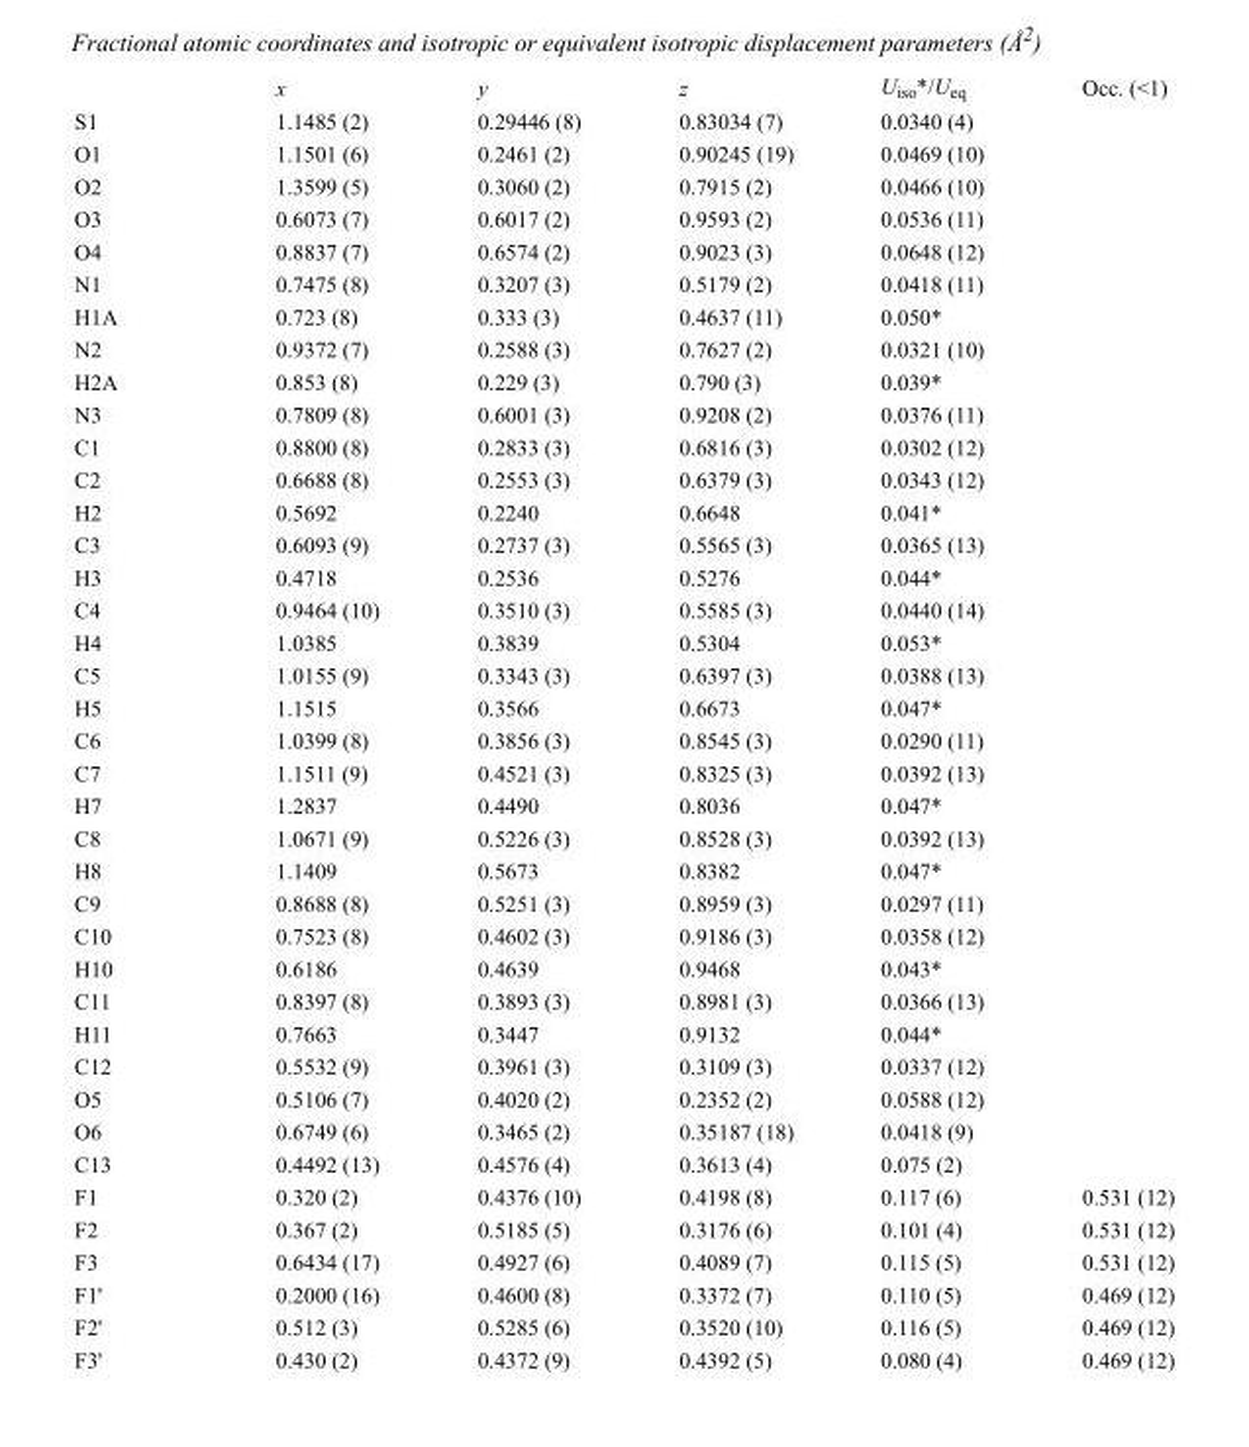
<table><thead><tr><td></td><td>x</td><td>y</td><td>z</td><td>U<sub>iso</sub>*/U<sub>eq</sub></td><td>Occ. (&lt;1)</td></tr></thead><tbody><tr><td>S1</td><td>1.1485 (2)</td><td>0.29446 (8)</td><td>0.83034 (7)</td><td>0.0340 (4)</td><td></td></tr><tr><td>O1</td><td>1.1501 (6)</td><td>0.2461 (2)</td><td>0.90245 (19)</td><td>0.0469 (10)</td><td></td></tr><tr><td>O2</td><td>1.3599 (5)</td><td>0.3060 (2)</td><td>0.7915 (2)</td><td>0.0466 (10)</td><td></td></tr><tr><td>O3</td><td>0.6073 (7)</td><td>0.6017 (2)</td><td>0.9593 (2)</td><td>0.0536 (11)</td><td></td></tr><tr><td>O4</td><td>0.8837 (7)</td><td>0.6574 (2)</td><td>0.9023 (3)</td><td>0.0648 (12)</td><td></td></tr><tr><td>N1</td><td>0.7475 (8)</td><td>0.3207 (3)</td><td>0.5179 (2)</td><td>0.0418 (11)</td><td></td></tr><tr><td>H1A</td><td>0.723 (8)</td><td>0.333 (3)</td><td>0.4637 (11)</td><td>0.050*</td><td></td></tr><tr><td>N2</td><td>0.9372 (7)</td><td>0.2588 (3)</td><td>0.7627 (2)</td><td>0.0321 (10)</td><td></td></tr><tr><td>H2A</td><td>0.853 (8)</td><td>0.229 (3)</td><td>0.790 (3)</td><td>0.039*</td><td></td></tr><tr><td>N3</td><td>0.7809 (8)</td><td>0.6001 (3)</td><td>0.9208 (2)</td><td>0.0376 (11)</td><td></td></tr><tr><td>C1</td><td>0.8800 (8)</td><td>0.2833 (3)</td><td>0.6816 (3)</td><td>0.0302 (12)</td><td></td></tr><tr><td>C2</td><td>0.6688 (8)</td><td>0.2553 (3)</td><td>0.6379 (3)</td><td>0.0343 (12)</td><td></td></tr><tr><td>H2</td><td>0.5692</td><td>0.2240</td><td>0.6648</td><td>0.041*</td><td></td></tr><tr><td>C3</td><td>0.6093 (9)</td><td>0.2737 (3)</td><td>0.5565 (3)</td><td>0.0365 (13)</td><td></td></tr><tr><td>H3</td><td>0.4718</td><td>0.2536</td><td>0.5276</td><td>0.044*</td><td></td></tr><tr><td>C4</td><td>0.9464 (10)</td><td>0.3510 (3)</td><td>0.5585 (3)</td><td>0.0440 (14)</td><td></td></tr><tr><td>H4</td><td>1.0385</td><td>0.3839</td><td>0.5304</td><td>0.053*</td><td></td></tr><tr><td>C5</td><td>1.0155 (9)</td><td>0.3343 (3)</td><td>0.6397 (3)</td><td>0.0388 (13)</td><td></td></tr><tr><td>H5</td><td>1.1515</td><td>0.3566</td><td>0.6673</td><td>0.047*</td><td></td></tr><tr><td>C6</td><td>1.0399 (8)</td><td>0.3856 (3)</td><td>0.8545 (3)</td><td>0.0290 (11)</td><td></td></tr><tr><td>C7</td><td>1.1511 (9)</td><td>0.4521 (3)</td><td>0.8325 (3)</td><td>0.0392 (13)</td><td></td></tr><tr><td>H7</td><td>1.2837</td><td>0.4490</td><td>0.8036</td><td>0.047*</td><td></td></tr><tr><td>C8</td><td>1.0671 (9)</td><td>0.5226 (3)</td><td>0.8528 (3)</td><td>0.0392 (13)</td><td></td></tr><tr><td>H8</td><td>1.1409</td><td>0.5673</td><td>0.8382</td><td>0.047*</td><td></td></tr><tr><td>C9</td><td>0.8688 (8)</td><td>0.5251 (3)</td><td>0.8959 (3)</td><td>0.0297 (11)</td><td></td></tr><tr><td>C10</td><td>0.7523 (8)</td><td>0.4602 (3)</td><td>0.9186 (3)</td><td>0.0358 (12)</td><td></td></tr><tr><td>H10</td><td>0.6186</td><td>0.4639</td><td>0.9468</td><td>0.043*</td><td></td></tr><tr><td>C11</td><td>0.8397 (8)</td><td>0.3893 (3)</td><td>0.8981 (3)</td><td>0.0366 (13)</td><td></td></tr><tr><td>H11</td><td>0.7663</td><td>0.3447</td><td>0.9132</td><td>0.044*</td><td></td></tr><tr><td>C12</td><td>0.5532 (9)</td><td>0.3961 (3)</td><td>0.3109 (3)</td><td>0.0337 (12)</td><td></td></tr><tr><td>O5</td><td>0.5106 (7)</td><td>0.4020 (2)</td><td>0.2352 (2)</td><td>0.0588 (12)</td><td></td></tr><tr><td>O6</td><td>0.6749 (6)</td><td>0.3465 (2)</td><td>0.35187 (18)</td><td>0.0418 (9)</td><td></td></tr><tr><td>C13</td><td>0.4492 (13)</td><td>0.4576 (4)</td><td>0.3613 (4)</td><td>0.075 (2)</td><td></td></tr><tr><td>F1</td><td>0.320 (2)</td><td>0.4376 (10)</td><td>0.4198 (8)</td><td>0.117 (6)</td><td>0.531 (12)</td></tr><tr><td>F2</td><td>0.367 (2)</td><td>0.5185 (5)</td><td>0.3176 (6)</td><td>0.101 (4)</td><td>0.531 (12)</td></tr><tr><td>F3</td><td>0.6434 (17)</td><td>0.4927 (6)</td><td>0.4089 (7)</td><td>0.115 (5)</td><td>0.531 (12)</td></tr><tr><td>F1&#x27;</td><td>0.2000 (16)</td><td>0.4600 (8)</td><td>0.3372 (7)</td><td>0.110 (5)</td><td>0.469 (12)</td></tr><tr><td>F2&#x27;</td><td>0.512 (3)</td><td>0.5285 (6)</td><td>0.3520 (10)</td><td>0.116 (5)</td><td>0.469 (12)</td></tr><tr><td>F3&#x27;</td><td>0.430 (2)</td><td>0.4372 (9)</td><td>0.4392 (5)</td><td>0.080 (4)</td><td>0.469 (12)</td></tr></tbody></table>